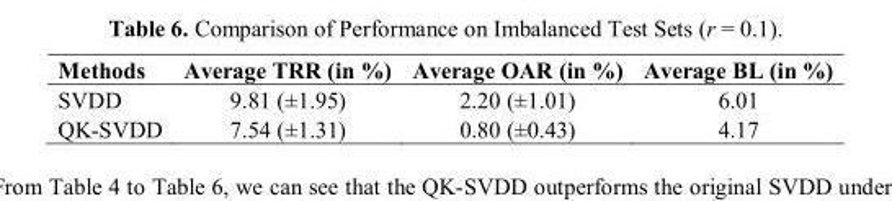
<table><thead><tr><td>Methods</td><td>Average TRR (in %)</td><td>Average OAR (in %)</td><td>Average BL (in %)</td></tr></thead><tbody><tr><td>SVDD</td><td>9.81 (±1.95)</td><td>2.20 (±1.01)</td><td>6.01</td></tr><tr><td>QK-SVDD</td><td>7.54 (±1.31)</td><td>0.80 (±0.43)</td><td>4.17</td></tr></tbody></table>